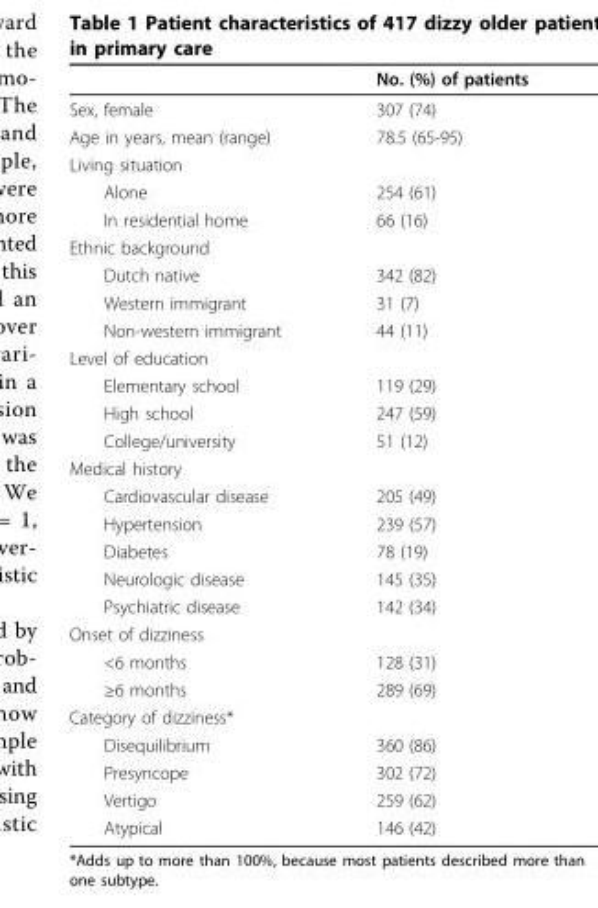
<table><thead><tr><td></td><td>No. (%) of patients</td></tr></thead><tbody><tr><td>Sex, female</td><td>307 (74)</td></tr><tr><td>Age in years, mean (range)</td><td>78.5 (65-95)</td></tr><tr><td colspan="2">Living situation</td></tr><tr><td>Alone</td><td>254 (61)</td></tr><tr><td>In residential home</td><td>66 (16)</td></tr><tr><td colspan="2">Ethnic background</td></tr><tr><td>Dutch native</td><td>342 (82)</td></tr><tr><td>Western immigrant</td><td>31 (7)</td></tr><tr><td>Non-western immigrant</td><td>44 (11)</td></tr><tr><td colspan="2">Level of education</td></tr><tr><td>Elementary school</td><td>119 (29)</td></tr><tr><td>High school</td><td>247 (59)</td></tr><tr><td>College/university</td><td>51 (12)</td></tr><tr><td colspan="2">Medical history</td></tr><tr><td>Cardiovascular disease</td><td>205 (49)</td></tr><tr><td>Hypertension</td><td>239 (57)</td></tr><tr><td>Diabetes</td><td>78 (19)</td></tr><tr><td>Neurologic disease</td><td>145 (35)</td></tr><tr><td>Psychiatric disease</td><td>142 (34)</td></tr><tr><td colspan="2">Onset of dizziness</td></tr><tr><td>&lt;6 months</td><td>128 (31)</td></tr><tr><td>≥6 months</td><td>289 (69)</td></tr><tr><td colspan="2">Category of dizziness*</td></tr><tr><td>Disequilibrium</td><td>360 (86)</td></tr><tr><td>Presyncope</td><td>302 (72)</td></tr><tr><td>Vertigo</td><td>259 (62)</td></tr><tr><td>Atypical</td><td>146 (42)</td></tr></tbody></table>